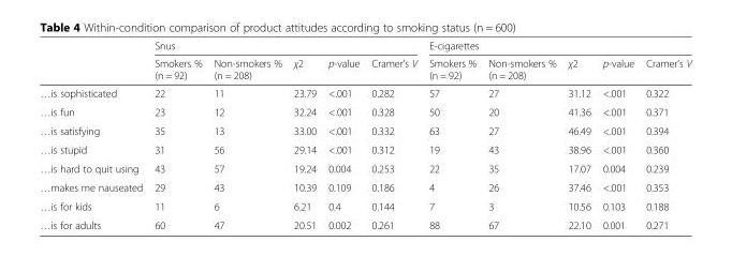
<table><thead><tr><td rowspan="2"></td><td colspan="5">Snus</td><td colspan="5">E-cigarettes</td></tr><tr><td>Smokers % (n = 92)</td><td>Non-smokers % (n = 208)</td><td>χ2</td><td>p-value</td><td>Cramer’s V</td><td>Smokers % (n = 92)</td><td>Non-smokers % (n = 208)</td><td>χ2</td><td>p-value</td><td>Cramer’s V</td></tr></thead><tbody><tr><td>…is sophisticated</td><td>22</td><td>11</td><td>23.79</td><td>&lt;.001</td><td>0.282</td><td>57</td><td>27</td><td>31.12</td><td>&lt;.001</td><td>0.322</td></tr><tr><td>…is fun</td><td>23</td><td>12</td><td>32.24</td><td>&lt;.001</td><td>0.328</td><td>50</td><td>20</td><td>41.36</td><td>&lt;.001</td><td>0.371</td></tr><tr><td>…is satisfying</td><td>35</td><td>13</td><td>33.00</td><td>&lt;.001</td><td>0.332</td><td>63</td><td>27</td><td>46.49</td><td>&lt;.001</td><td>0.394</td></tr><tr><td>…is stupid</td><td>31</td><td>56</td><td>29.14</td><td>&lt;.001</td><td>0.312</td><td>19</td><td>43</td><td>38.96</td><td>&lt;.001</td><td>0.360</td></tr><tr><td>…is hard to quit using</td><td>43</td><td>57</td><td>19.24</td><td>0.004</td><td>0.253</td><td>22</td><td>35</td><td>17.07</td><td>0.004</td><td>0.239</td></tr><tr><td>…makes me nauseated</td><td>29</td><td>43</td><td>10.39</td><td>0.109</td><td>0.186</td><td>4</td><td>26</td><td>37.46</td><td>&lt;.001</td><td>0.353</td></tr><tr><td>…is for kids</td><td>11</td><td>6</td><td>6.21</td><td>0.4</td><td>0.144</td><td>7</td><td>3</td><td>10.56</td><td>0.103</td><td>0.188</td></tr><tr><td>…is for adults</td><td>60</td><td>47</td><td>20.51</td><td>0.002</td><td>0.261</td><td>88</td><td>67</td><td>22.10</td><td>0.001</td><td>0.271</td></tr></tbody></table>